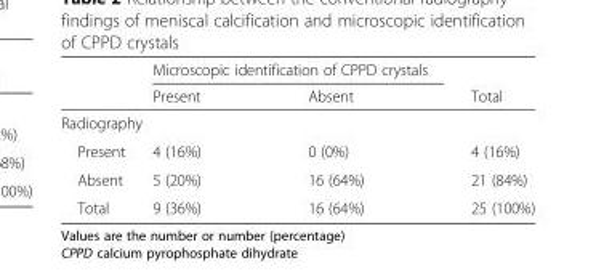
<table><thead><tr><td rowspan="2"></td><td colspan="2">Microscopic identification of CPPD crystals</td><td rowspan="2">Total</td></tr><tr><td>Present</td><td>Absent</td></tr></thead><tbody><tr><td colspan="4">Radiography</td></tr><tr><td>Present</td><td>4 (16%)</td><td>0 (0%)</td><td>4 (16%)</td></tr><tr><td>Absent</td><td>5 (20%)</td><td>16 (64%)</td><td>21 (84%)</td></tr><tr><td>Total</td><td>9 (36%)</td><td>16 (64%)</td><td>25 (100%)</td></tr></tbody></table>